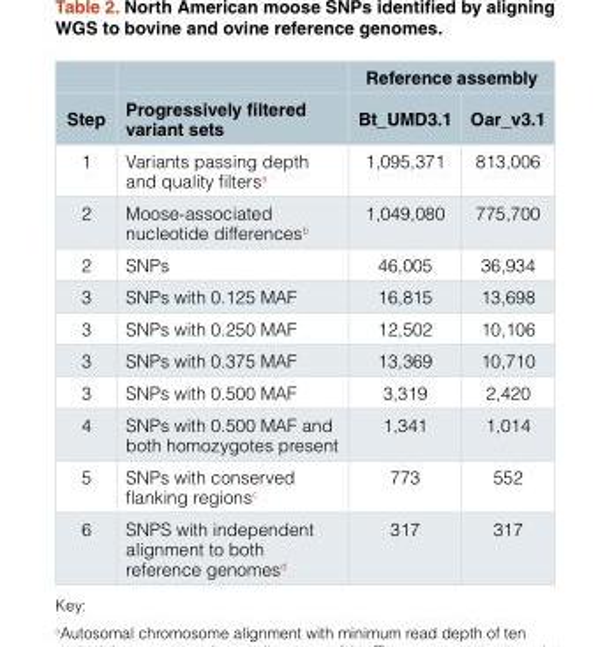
<table><thead><tr><td rowspan="2">Step</td><td rowspan="2">Progressively filtered variant sets</td><td colspan="2">Reference assembly</td></tr><tr><td>Bt_UMD3.1</td><td>Oar_v3.1</td></tr></thead><tbody><tr><td>1</td><td>Variants passing depth and quality filters<sup>a</sup></td><td>1,095,371</td><td>813,006</td></tr><tr><td>2</td><td>Moose-associated nucleotide differences<sup>b</sup></td><td>1,049,080</td><td>775,700</td></tr><tr><td>2</td><td>SNPs</td><td>46,005</td><td>36,934</td></tr><tr><td>3</td><td>SNPs with 0.125 MAF</td><td>16,815</td><td>13,698</td></tr><tr><td>3</td><td>SNPs with 0.250 MAF</td><td>12,502</td><td>10,106</td></tr><tr><td>3</td><td>SNPs with 0.375 MAF</td><td>13,369</td><td>10,710</td></tr><tr><td>3</td><td>SNPs with 0.500 MAF</td><td>3,319</td><td>2,420</td></tr><tr><td>4</td><td>SNPs with 0.500 MAF and both homozygotes present</td><td>1,341</td><td>1,014</td></tr><tr><td>5</td><td>SNPs with conserved flanking regions<sup>c</sup></td><td>773</td><td>552</td></tr><tr><td>6</td><td>SNPS with independent alignment to both reference genomes<sup>d</sup></td><td>317</td><td>317</td></tr></tbody></table>